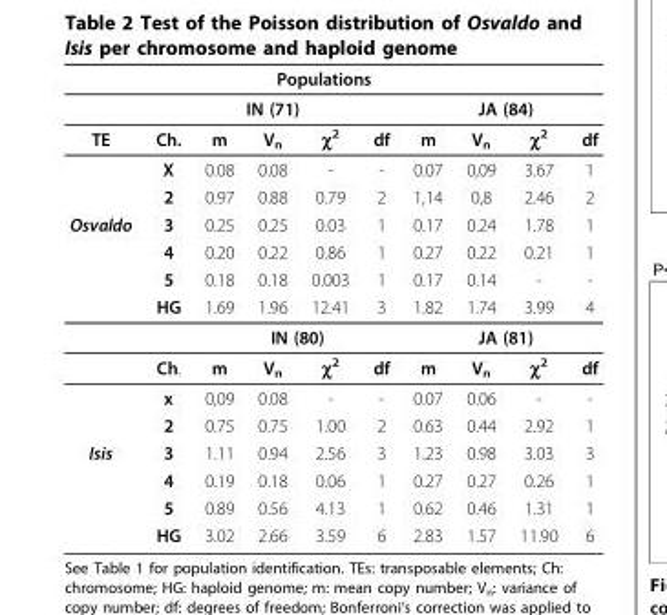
<table><thead><tr><td rowspan="3">TE</td><td></td><td></td><td colspan="3">Populations</td><td></td><td></td><td></td><td></td></tr><tr><td colspan="5">IN (71)</td><td colspan="4">JA (84)</td></tr><tr><td>Ch.</td><td>m</td><td>V<sub>n</sub></td><td>χ<sup>2</sup></td><td>df</td><td>m</td><td>V<sub>n</sub></td><td>χ<sup>2</sup></td><td>df</td></tr></thead><tbody><tr><td></td><td>X</td><td>0.08</td><td>0.08</td><td>-</td><td>-</td><td>0.07</td><td>0,09</td><td>3.67</td><td>1</td></tr><tr><td></td><td>2</td><td>0.97</td><td>0.88</td><td>0.79</td><td>2</td><td>1,14</td><td>0,8</td><td>2.46</td><td>2</td></tr><tr><td rowspan="8">Osvaldo</td><td>3</td><td>0.25</td><td>0.25</td><td>0.03</td><td>1</td><td>0.17</td><td>0.24</td><td>1.78</td><td>1</td></tr><tr><td>4</td><td>0.20</td><td>0.22</td><td>0.86</td><td>1</td><td>0.27</td><td>0.22</td><td>0.21</td><td>1</td></tr><tr><td>5</td><td>0.18</td><td>0.18</td><td>0.003</td><td>1</td><td>0.17</td><td>0.14</td><td>-</td><td>-</td></tr><tr><td>HG</td><td>1.69</td><td>1.96</td><td>12.41</td><td>3</td><td>1.82</td><td>1.74</td><td>3.99</td><td>4</td></tr><tr><td></td><td colspan="4">IN (80)</td><td colspan="4">JA (81)</td></tr><tr><td>Ch.</td><td>m</td><td>V<sub>n</sub></td><td>χ<sup>2</sup></td><td>df</td><td>m</td><td>V<sub>n</sub></td><td>χ<sup>2</sup></td><td>df</td></tr><tr><td>x</td><td>0,09</td><td>0.08</td><td>-</td><td>-</td><td>0.07</td><td>0.06</td><td>-</td><td>-</td></tr><tr><td>2</td><td>0.75</td><td>0.75</td><td>1.00</td><td>2</td><td>0.63</td><td>0.44</td><td>2.92</td><td>1</td></tr><tr><td rowspan="4">Isis</td><td>3</td><td>1.11</td><td>0.94</td><td>2.56</td><td>3</td><td>1.23</td><td>0.98</td><td>3.03</td><td>3</td></tr><tr><td>4</td><td>0.19</td><td>0.18</td><td>0.06</td><td>1</td><td>0.27</td><td>0.27</td><td>0.26</td><td>1</td></tr><tr><td>5</td><td>0.89</td><td>0.56</td><td>4.13</td><td>1</td><td>0.62</td><td>0.46</td><td>1.31</td><td>1</td></tr><tr><td>HG</td><td>3.02</td><td>2.66</td><td>3.59</td><td>6</td><td>2.83</td><td>1.57</td><td>11.90</td><td>6</td></tr></tbody></table>